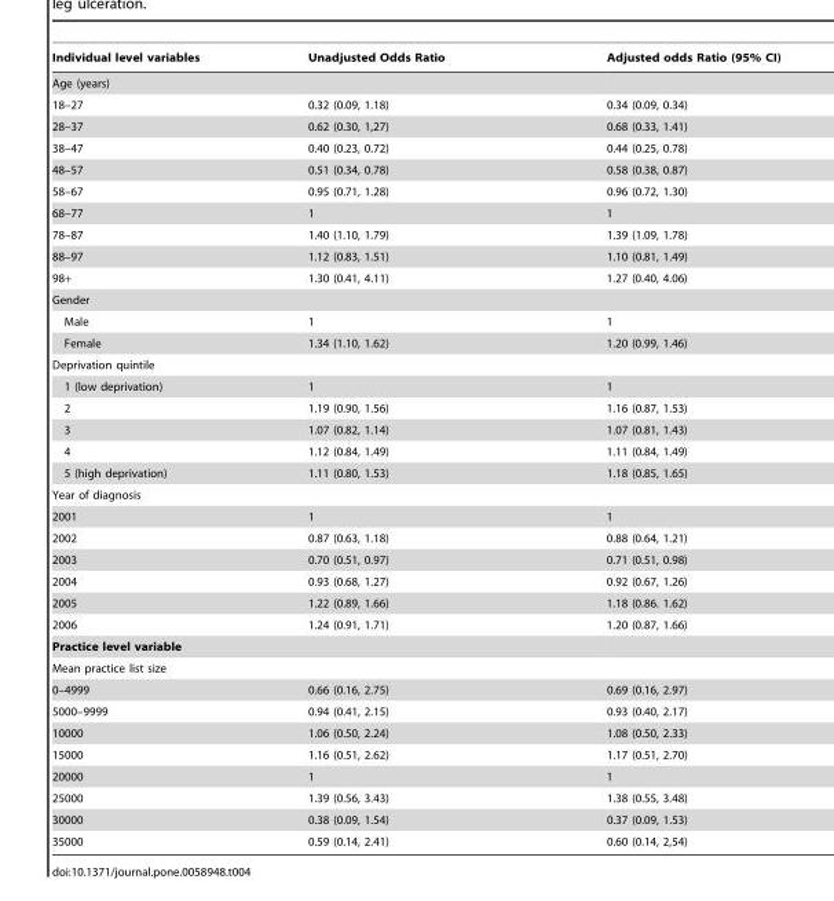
<table><thead><tr><td>Individual level variables</td><td>Unadjusted Odds Ratio</td><td>Adjusted odds Ratio (95% CI)</td></tr></thead><tbody><tr><td colspan="3">Age (years)</td></tr><tr><td>18–27</td><td>0.32 (0.09, 1.18)</td><td>0.34 (0.09, 0.34)</td></tr><tr><td>28–37</td><td>0.62 (0.30, 1,27)</td><td>0.68 (0.33, 1.41)</td></tr><tr><td>38–47</td><td>0.40 (0.23, 0.72)</td><td>0.44 (0.25, 0.78)</td></tr><tr><td>48–57</td><td>0.51 (0.34, 0.78)</td><td>0.58 (0.38, 0.87)</td></tr><tr><td>58–67</td><td>0.95 (0.71, 1.28)</td><td>0.96 (0.72, 1.30)</td></tr><tr><td>68–77</td><td>1</td><td>1</td></tr><tr><td>78–87</td><td>1.40 (1.10, 1.79)</td><td>1.39 (1.09, 1.78)</td></tr><tr><td>88–97</td><td>1.12 (0.83, 1.51)</td><td>1.10 (0.81, 1.49)</td></tr><tr><td>98+</td><td>1.30 (0.41, 4.11)</td><td>1.27 (0.40, 4.06)</td></tr><tr><td colspan="3">Gender</td></tr><tr><td>Male</td><td>1</td><td>1</td></tr><tr><td>Female</td><td>1.34 (1.10, 1.62)</td><td>1.20 (0.99, 1.46)</td></tr><tr><td colspan="3">Deprivation quintile</td></tr><tr><td>1 (low deprivation)</td><td>1</td><td>1</td></tr><tr><td>2</td><td>1.19 (0.90, 1.56)</td><td>1.16 (0.87, 1.53)</td></tr><tr><td>3</td><td>1.07 (0.82, 1.14)</td><td>1.07 (0.81, 1.43)</td></tr><tr><td>4</td><td>1.12 (0.84, 1.49)</td><td>1.11 (0.84, 1.49)</td></tr><tr><td>5 (high deprivation)</td><td>1.11 (0.80, 1.53)</td><td>1.18 (0.85, 1.65)</td></tr><tr><td colspan="3">Year of diagnosis</td></tr><tr><td>2001</td><td>1</td><td>1</td></tr><tr><td>2002</td><td>0.87 (0.63, 1.18)</td><td>0.88 (0.64, 1.21)</td></tr><tr><td>2003</td><td>0.70 (0.51, 0.97)</td><td>0.71 (0.51, 0.98)</td></tr><tr><td>2004</td><td>0.93 (0.68, 1.27)</td><td>0.92 (0.67, 1.26)</td></tr><tr><td>2005</td><td>1.22 (0.89, 1.66)</td><td>1.18 (0.86. 1.62)</td></tr><tr><td>2006</td><td>1.24 (0.91, 1.71)</td><td>1.20 (0.87, 1.66)</td></tr><tr><td colspan="3">Practice level variable</td></tr><tr><td colspan="3">Mean practice list size</td></tr><tr><td>0–4999</td><td>0.66 (0.16, 2.75)</td><td>0.69 (0.16, 2.97)</td></tr><tr><td>5000–9999</td><td>0.94 (0.41, 2.15)</td><td>0.93 (0.40, 2.17)</td></tr><tr><td>10000</td><td>1.06 (0.50, 2.24)</td><td>1.08 (0.50, 2.33)</td></tr><tr><td>15000</td><td>1.16 (0.51, 2.62)</td><td>1.17 (0.51, 2.70)</td></tr><tr><td>20000</td><td>1</td><td>1</td></tr><tr><td>25000</td><td>1.39 (0.56, 3.43)</td><td>1.38 (0.55, 3.48)</td></tr><tr><td>30000</td><td>0.38 (0.09, 1.54)</td><td>0.37 (0.09, 1.53)</td></tr><tr><td>35000</td><td>0.59 (0.14, 2.41)</td><td>0.60 (0.14, 2,54)</td></tr></tbody></table>